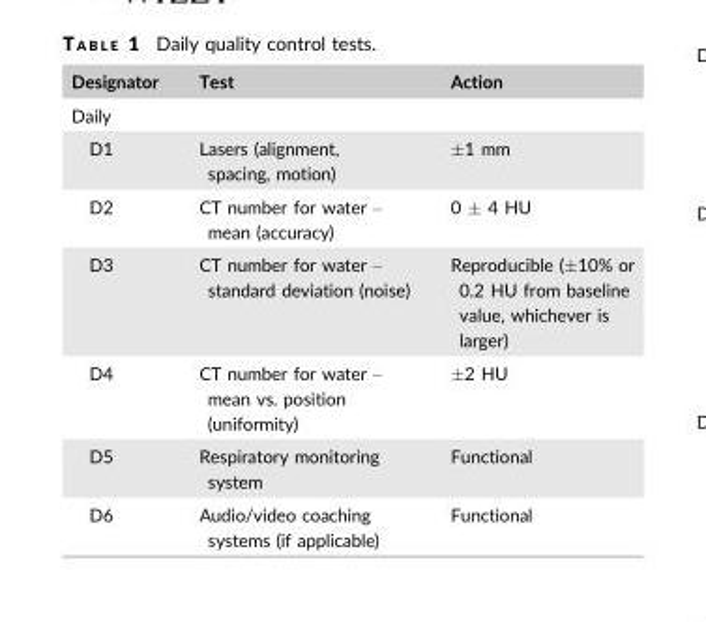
<table><thead><tr><td>Designator</td><td>Test</td><td>Action</td></tr></thead><tbody><tr><td colspan="3">Daily</td></tr><tr><td>D1</td><td>Lasers (alignment, spacing, motion)</td><td>±1 mm</td></tr><tr><td>D2</td><td>CT number for water – mean (accuracy)</td><td>0 ± 4 HU</td></tr><tr><td>D3</td><td>CT number for water – standard deviation (noise)</td><td>Reproducible (±10% or 0.2 HU from baseline value, whichever is larger)</td></tr><tr><td>D4</td><td>CT number for water – mean vs. position (uniformity)</td><td>±2 HU</td></tr><tr><td>D5</td><td>Respiratory monitoring system</td><td>Functional</td></tr><tr><td>D6</td><td>Audio/video coaching systems (if applicable)</td><td>Functional</td></tr></tbody></table>